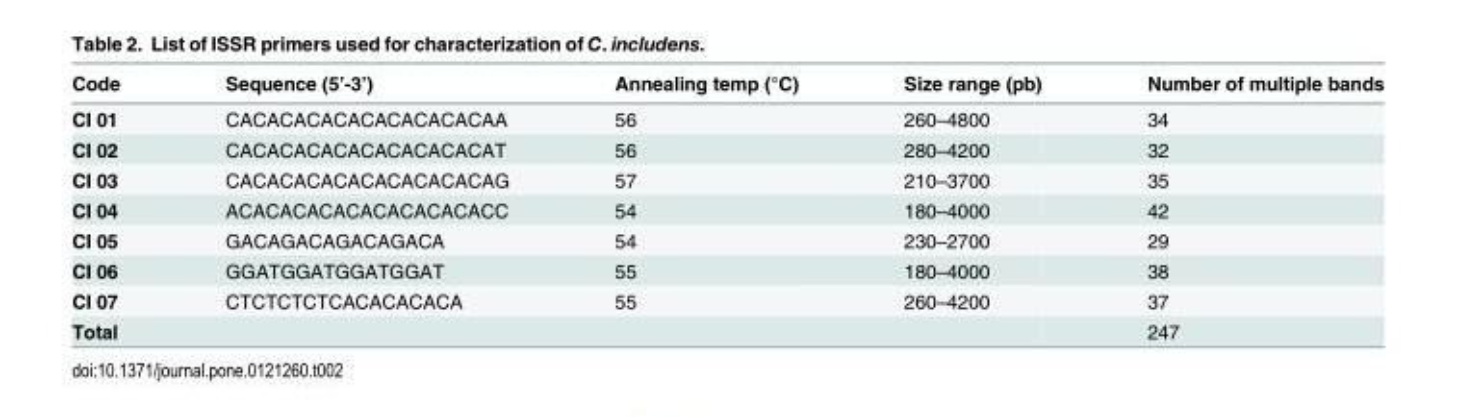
<table><thead><tr><td>Code</td><td>Sequence (5’-3’)</td><td>Annealing temp (°C)</td><td>Size range (pb)</td><td>Number of multiple bands</td></tr></thead><tbody><tr><td>CI 01</td><td>CACACACACACACACACACAA</td><td>56</td><td>260–4800</td><td>34</td></tr><tr><td>CI 02</td><td>CACACACACACACACACACAT</td><td>56</td><td>280–4200</td><td>32</td></tr><tr><td>CI 03</td><td>CACACACACACACACACACAG</td><td>57</td><td>210–3700</td><td>35</td></tr><tr><td>CI 04</td><td>ACACACACACACACACACACC</td><td>54</td><td>180–4000</td><td>42</td></tr><tr><td>CI 05</td><td>GACAGACAGACAGACA</td><td>54</td><td>230–2700</td><td>29</td></tr><tr><td>CI 06</td><td>GGATGGATGGATGGAT</td><td>55</td><td>180–4000</td><td>38</td></tr><tr><td>CI 07</td><td>CTCTCTCTCACACACACA</td><td>55</td><td>260–4200</td><td>37</td></tr><tr><td>Total</td><td></td><td></td><td></td><td>247</td></tr></tbody></table>